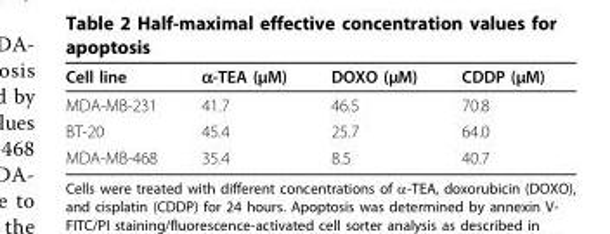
<table><thead><tr><td>Cell line</td><td>α-TEA (μM)</td><td>DOXO (μM)</td><td>CDDP (μM)</td></tr></thead><tbody><tr><td>MDA-MB-231</td><td>41.7</td><td>46.5</td><td>70.8</td></tr><tr><td>BT-20</td><td>45.4</td><td>25.7</td><td>64.0</td></tr><tr><td>MDA-MB-468</td><td>35.4</td><td>8.5</td><td>40.7</td></tr></tbody></table>